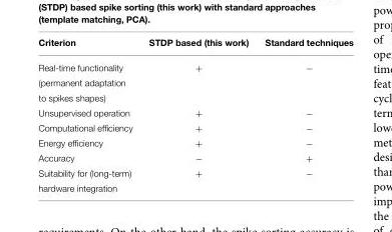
<table><thead><tr><td>Criterion</td><td>STDP based (this work)</td><td>Standard techniques</td></tr></thead><tbody><tr><td>Real-time functionality</td><td>+</td><td>−</td></tr><tr><td colspan="3">(permanent adaptation</td></tr><tr><td colspan="3">to spikes shapes)</td></tr><tr><td>Unsupervised operation</td><td>+</td><td>−</td></tr><tr><td>Computational efficiency</td><td>+</td><td>−</td></tr><tr><td>Energy efficiency</td><td>+</td><td>−</td></tr><tr><td>Accuracy</td><td>−</td><td>+</td></tr><tr><td>Suitability for (long-term)</td><td>+</td><td>−</td></tr><tr><td>hardware integration</td><td></td><td></td></tr></tbody></table>